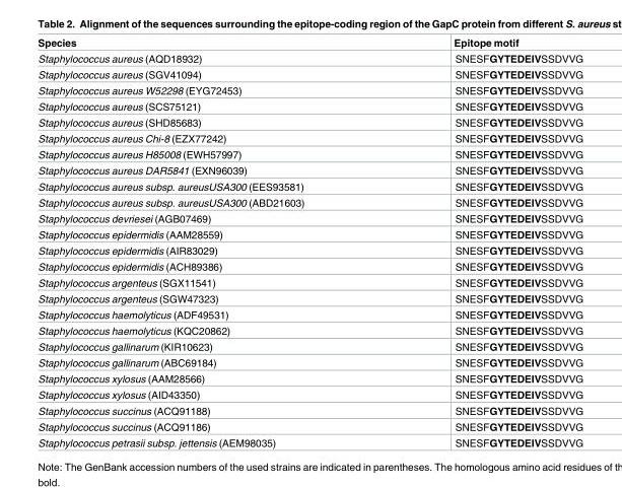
<table><thead><tr><td>Species</td><td>Epitope motif</td></tr></thead><tbody><tr><td>Staphylococcus aureus (AQD18932)</td><td>SNESFGYTEDEIVSSDVVG</td></tr><tr><td>Staphylococcus aureus (SGV41094)</td><td>SNESFGYTEDEIVSSDVVG</td></tr><tr><td>Staphylococcus aureus W52298 (EYG72453)</td><td>SNESFGYTEDEIVSSDVVG</td></tr><tr><td>Staphylococcus aureus (SCS75121)</td><td>SNESFGYTEDEIVSSDVVG</td></tr><tr><td>Staphylococcus aureus (SHD85683)</td><td>SNESFGYTEDEIVSSDVVG</td></tr><tr><td>Staphylococcus aureus Chi-8 (EZX77242)</td><td>SNESFGYTEDEIVSSDVVG</td></tr><tr><td>Staphylococcus aureus H85008 (EWH57997)</td><td>SNESFGYTEDEIVSSDVVG</td></tr><tr><td>Staphylococcus aureus DAR5841 (EXN96039)</td><td>SNESFGYTEDEIVSSDVVG</td></tr><tr><td>Staphylococcus aureus subsp. aureusUSA300 (EES93581)</td><td>SNESFGYTEDEIVSSDVVG</td></tr><tr><td>Staphylococcus aureus subsp. aureusUSA300 (ABD21603)</td><td>SNESFGYTEDEIVSSDVVG</td></tr><tr><td>Staphylococcus devriesei (AGB07469)</td><td>SNESFGYTEDEIVSSDVVG</td></tr><tr><td>Staphylococcus epidermidis (AAM28559)</td><td>SNESFGYTEDEIVSSDVVG</td></tr><tr><td>Staphylococcus epidermidis (AIR83029)</td><td>SNESFGYTEDEIVSSDVVG</td></tr><tr><td>Staphylococcus epidermidis (ACH89386)</td><td>SNESFGYTEDEIVSSDVVG</td></tr><tr><td>Staphylococcus argenteus (SGX11541)</td><td>SNESFGYTEDEIVSSDVVG</td></tr><tr><td>Staphylococcus argenteus (SGW47323)</td><td>SNESFGYTEDEIVSSDVVG</td></tr><tr><td>Staphylococcus haemolyticus (ADF49531)</td><td>SNESFGYTEDEIVSSDVVG</td></tr><tr><td>Staphylococcus haemolyticus (KQC20862)</td><td>SNESFGYTEDEIVSSDVVG</td></tr><tr><td>Staphylococcus gallinarum (KIR10623)</td><td>SNESFGYTEDEIVSSDVVG</td></tr><tr><td>Staphylococcus gallinarum (ABC69184)</td><td>SNESFGYTEDEIVSSDVVG</td></tr><tr><td>Staphylococcus xylosus (AAM28566)</td><td>SNESFGYTEDEIVSSDVVG</td></tr><tr><td>Staphylococcus xylosus (AID43350)</td><td>SNESFGYTEDEIVSSDVVG</td></tr><tr><td>Staphylococcus succinus (ACQ91188)</td><td>SNESFGYTEDEIVSSDVVG</td></tr><tr><td>Staphylococcus succinus (ACQ91186)</td><td>SNESFGYTEDEIVSSDVVG</td></tr><tr><td>Staphylococcus petrasii subsp. jettensis (AEM98035)</td><td>SNESFGYTEDEIVSSDVVG</td></tr></tbody></table>